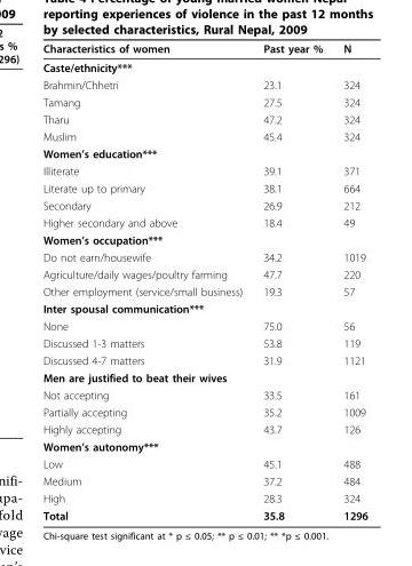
<table><thead><tr><td>Characteristics of women</td><td>Past year %</td><td>N</td></tr></thead><tbody><tr><td colspan="3">Caste/ethnicity***</td></tr><tr><td>Brahmin/Chhetri</td><td>23.1</td><td>324</td></tr><tr><td>Tamang</td><td>27.5</td><td>324</td></tr><tr><td>Tharu</td><td>47.2</td><td>324</td></tr><tr><td>Muslim</td><td>45.4</td><td>324</td></tr><tr><td colspan="3">Women’s education***</td></tr><tr><td>Illiterate</td><td>39.1</td><td>371</td></tr><tr><td>Literate up to primary</td><td>38.1</td><td>664</td></tr><tr><td>Secondary</td><td>26.9</td><td>212</td></tr><tr><td>Higher secondary and above</td><td>18.4</td><td>49</td></tr><tr><td colspan="3">Women’s occupation***</td></tr><tr><td>Do not earn/housewife</td><td>34.2</td><td>1019</td></tr><tr><td>Agriculture/daily wages/poultry farming</td><td>47.7</td><td>220</td></tr><tr><td>Other employment (service/small business)</td><td>19.3</td><td>57</td></tr><tr><td colspan="3">Inter spousal communication***</td></tr><tr><td>None</td><td>75.0</td><td>56</td></tr><tr><td>Discussed 1-3 matters</td><td>53.8</td><td>119</td></tr><tr><td>Discussed 4-7 matters</td><td>31.9</td><td>1121</td></tr><tr><td colspan="3">Men are justified to beat their wives</td></tr><tr><td>Not accepting</td><td>33.5</td><td>161</td></tr><tr><td>Partially accepting</td><td>35.2</td><td>1009</td></tr><tr><td>Highly accepting</td><td>43.7</td><td>126</td></tr><tr><td colspan="3">Women’s autonomy***</td></tr><tr><td>Low</td><td>45.1</td><td>488</td></tr><tr><td>Medium</td><td>37.2</td><td>484</td></tr><tr><td>High</td><td>28.3</td><td>324</td></tr><tr><td>Total</td><td>35.8</td><td>1296</td></tr></tbody></table>